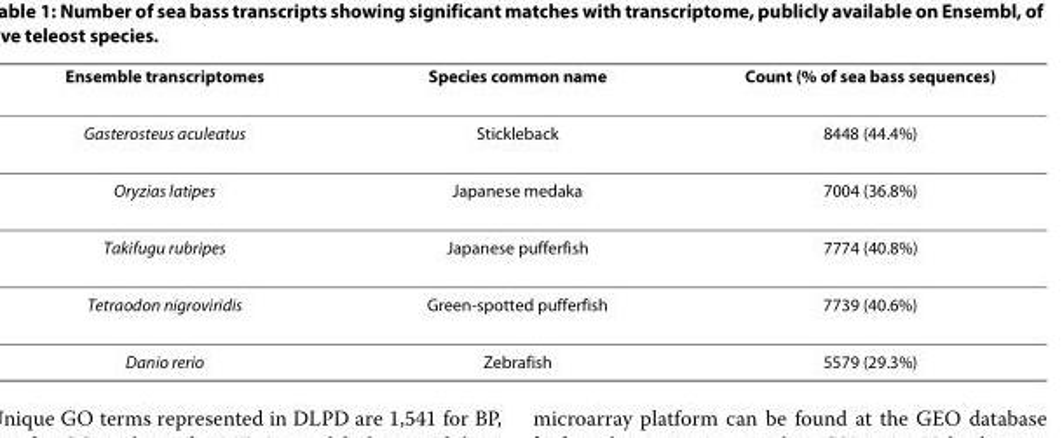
<table><thead><tr><td>Ensemble transcriptomes</td><td>Species common name</td><td>Count (% of sea bass sequences)</td></tr></thead><tbody><tr><td>Gasterosteus aculeatus</td><td>Stickleback</td><td>8448 (44.4%)</td></tr><tr><td>Oryzias latipes</td><td>Japanese medaka</td><td>7004 (36.8%)</td></tr><tr><td>Takifugu rubripes</td><td>Japanese pufferfish</td><td>7774 (40.8%)</td></tr><tr><td>Tetraodon nigroviridis</td><td>Green-spotted pufferfish</td><td>7739 (40.6%)</td></tr><tr><td>Danio rerio</td><td>Zebrafish</td><td>5579 (29.3%)</td></tr></tbody></table>